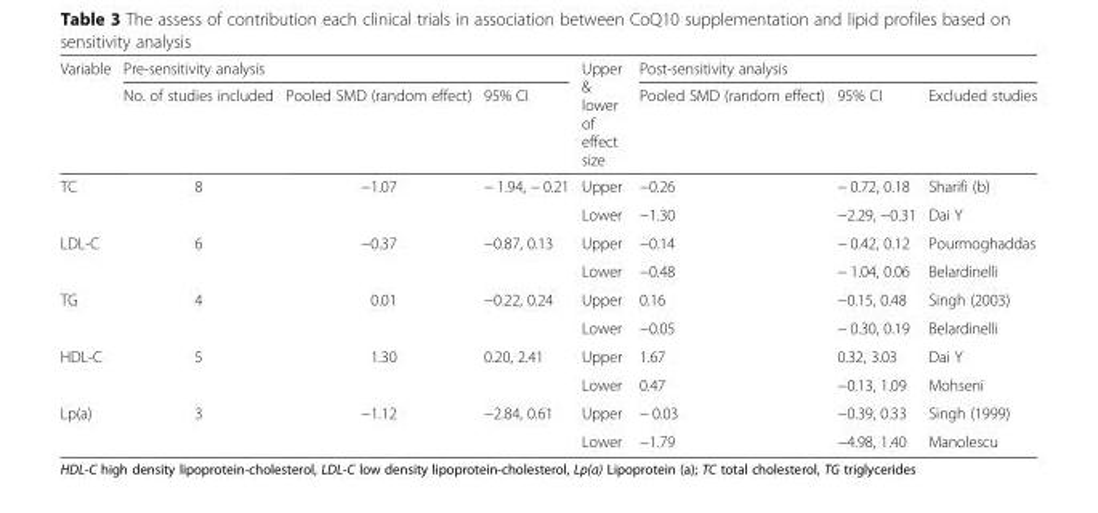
<table><thead><tr><td rowspan="2">Variable</td><td colspan="3">Pre-sensitivity analysis</td><td rowspan="2">Upper &amp; lower of effect size</td><td colspan="3">Post-sensitivity analysis</td></tr><tr><td>No. of studies included</td><td>Pooled SMD (random effect)</td><td>95% CI</td><td>Pooled SMD (random effect)</td><td>95% CI</td><td>Excluded studies</td></tr></thead><tbody><tr><td rowspan="2">TC</td><td rowspan="2">8</td><td rowspan="2">−1.07</td><td rowspan="2">− 1.94, − 0.21</td><td>Upper</td><td>−0.26</td><td>− 0.72, 0.18</td><td>Sharifi (b)</td></tr><tr><td>Lower</td><td>−1.30</td><td>−2.29, −0.31</td><td>Dai Y</td></tr><tr><td rowspan="2">LDL-C</td><td rowspan="2">6</td><td rowspan="2">−0.37</td><td rowspan="2">−0.87, 0.13</td><td>Upper</td><td>−0.14</td><td>− 0.42, 0.12</td><td>Pourmoghaddas</td></tr><tr><td>Lower</td><td>−0.48</td><td>− 1.04, 0.06</td><td>Belardinelli</td></tr><tr><td rowspan="2">TG</td><td rowspan="2">4</td><td rowspan="2">0.01</td><td rowspan="2">−0.22, 0.24</td><td>Upper</td><td>0.16</td><td>−0.15, 0.48</td><td>Singh (2003)</td></tr><tr><td>Lower</td><td>−0.05</td><td>− 0.30, 0.19</td><td>Belardinelli</td></tr><tr><td rowspan="2">HDL-C</td><td rowspan="2">5</td><td rowspan="2">1.30</td><td rowspan="2">0.20, 2.41</td><td>Upper</td><td>1.67</td><td>0.32, 3.03</td><td>Dai Y</td></tr><tr><td>Lower</td><td>0.47</td><td>−0.13, 1.09</td><td>Mohseni</td></tr><tr><td rowspan="2">Lp(a)</td><td rowspan="2">3</td><td rowspan="2">−1.12</td><td rowspan="2">−2.84, 0.61</td><td>Upper</td><td>− 0.03</td><td>−0.39, 0.33</td><td>Singh (1999)</td></tr><tr><td>Lower</td><td>−1.79</td><td>−4.98, 1.40</td><td>Manolescu</td></tr></tbody></table>